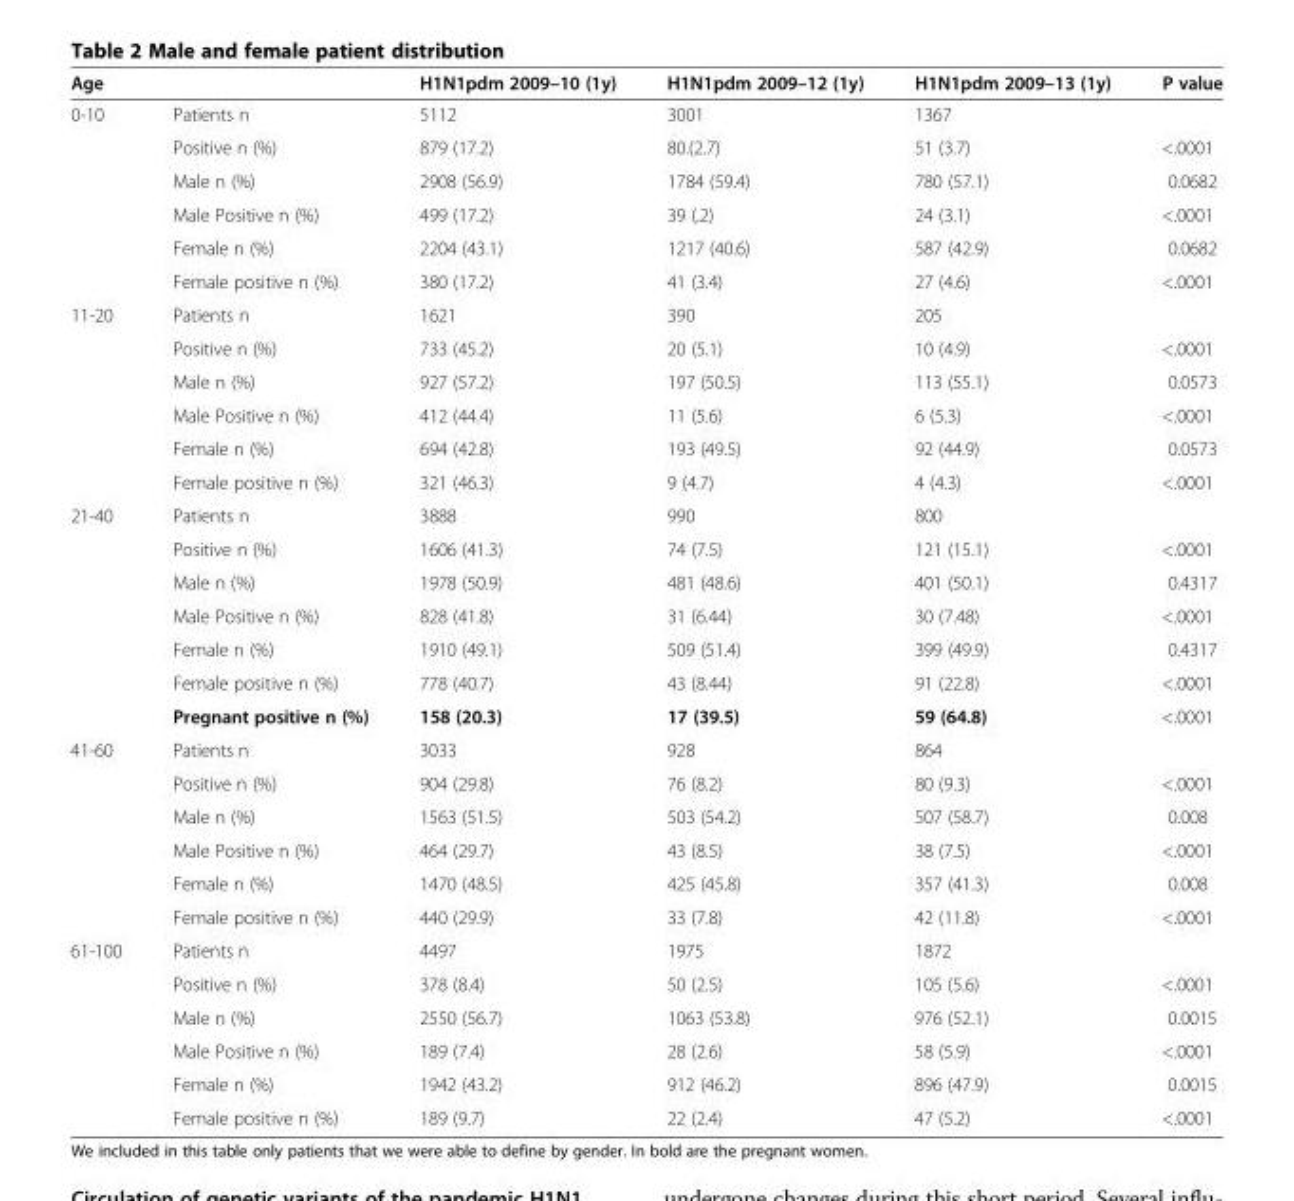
<table><thead><tr><td>Age</td><td></td><td>H1N1pdm 2009–10 (1y)</td><td>H1N1pdm 2009–12 (1y)</td><td>H1N1pdm 2009–13 (1y)</td><td>P value</td></tr></thead><tbody><tr><td rowspan="6">0-10</td><td>Patients n</td><td>5112</td><td>3001</td><td>1367</td><td></td></tr><tr><td>Positive n (%)</td><td>879 (17.2)</td><td>80.(2.7)</td><td>51 (3.7)</td><td>&lt;.0001</td></tr><tr><td>Male n (%)</td><td>2908 (56.9)</td><td>1784 (59.4)</td><td>780 (57.1)</td><td>0.0682</td></tr><tr><td>Male Positive n (%)</td><td>499 (17.2)</td><td>39 (.2)</td><td>24 (3.1)</td><td>&lt;.0001</td></tr><tr><td>Female n (%)</td><td>2204 (43.1)</td><td>1217 (40.6)</td><td>587 (42.9)</td><td>0.0682</td></tr><tr><td>Female positive n (%)</td><td>380 (17.2)</td><td>41 (3.4)</td><td>27 (4.6)</td><td>&lt;.0001</td></tr><tr><td rowspan="6">11-20</td><td>Patients n</td><td>1621</td><td>390</td><td>205</td><td></td></tr><tr><td>Positive n (%)</td><td>733 (45.2)</td><td>20 (5.1)</td><td>10 (4.9)</td><td>&lt;.0001</td></tr><tr><td>Male n (%)</td><td>927 (57.2)</td><td>197 (50.5)</td><td>113 (55.1)</td><td>0.0573</td></tr><tr><td>Male Positive n (%)</td><td>412 (44.4)</td><td>11 (5.6)</td><td>6 (5.3)</td><td>&lt;.0001</td></tr><tr><td>Female n (%)</td><td>694 (42.8)</td><td>193 (49.5)</td><td>92 (44.9)</td><td>0.0573</td></tr><tr><td>Female positive n (%)</td><td>321 (46.3)</td><td>9 (4.7)</td><td>4 (4.3)</td><td>&lt;.0001</td></tr><tr><td rowspan="7">21-40</td><td>Patients n</td><td>3888</td><td>990</td><td>800</td><td></td></tr><tr><td>Positive n (%)</td><td>1606 (41.3)</td><td>74 (7.5)</td><td>121 (15.1)</td><td>&lt;.0001</td></tr><tr><td>Male n (%)</td><td>1978 (50.9)</td><td>481 (48.6)</td><td>401 (50.1)</td><td>0.4317</td></tr><tr><td>Male Positive n (%)</td><td>828 (41.8)</td><td>31 (6.44)</td><td>30 (7.48)</td><td>&lt;.0001</td></tr><tr><td>Female n (%)</td><td>1910 (49.1)</td><td>509 (51.4)</td><td>399 (49.9)</td><td>0.4317</td></tr><tr><td>Female positive n (%)</td><td>778 (40.7)</td><td>43 (8.44)</td><td>91 (22.8)</td><td>&lt;.0001</td></tr><tr><td>Pregnant positive n (%)</td><td>158 (20.3)</td><td>17 (39.5)</td><td>59 (64.8)</td><td>&lt;.0001</td></tr><tr><td rowspan="6">41-60</td><td>Patients n</td><td>3033</td><td>928</td><td>864</td><td></td></tr><tr><td>Positive n (%)</td><td>904 (29.8)</td><td>76 (8.2)</td><td>80 (9.3)</td><td>&lt;.0001</td></tr><tr><td>Male n (%)</td><td>1563 (51.5)</td><td>503 (54.2)</td><td>507 (58.7)</td><td>0.008</td></tr><tr><td>Male Positive n (%)</td><td>464 (29.7)</td><td>43 (8.5)</td><td>38 (7.5)</td><td>&lt;.0001</td></tr><tr><td>Female n (%)</td><td>1470 (48.5)</td><td>425 (45.8)</td><td>357 (41.3)</td><td>0.008</td></tr><tr><td>Female positive n (%)</td><td>440 (29.9)</td><td>33 (7.8)</td><td>42 (11.8)</td><td>&lt;.0001</td></tr><tr><td rowspan="6">61-100</td><td>Patients n</td><td>4497</td><td>1975</td><td>1872</td><td></td></tr><tr><td>Positive n (%)</td><td>378 (8.4)</td><td>50 (2.5)</td><td>105 (5.6)</td><td>&lt;.0001</td></tr><tr><td>Male n (%)</td><td>2550 (56.7)</td><td>1063 (53.8)</td><td>976 (52.1)</td><td>0.0015</td></tr><tr><td>Male Positive n (%)</td><td>189 (7.4)</td><td>28 (2.6)</td><td>58 (5.9)</td><td>&lt;.0001</td></tr><tr><td>Female n (%)</td><td>1942 (43.2)</td><td>912 (46.2)</td><td>896 (47.9)</td><td>0.0015</td></tr><tr><td>Female positive n (%)</td><td>189 (9.7)</td><td>22 (2.4)</td><td>47 (5.2)</td><td>&lt;.0001</td></tr></tbody></table>